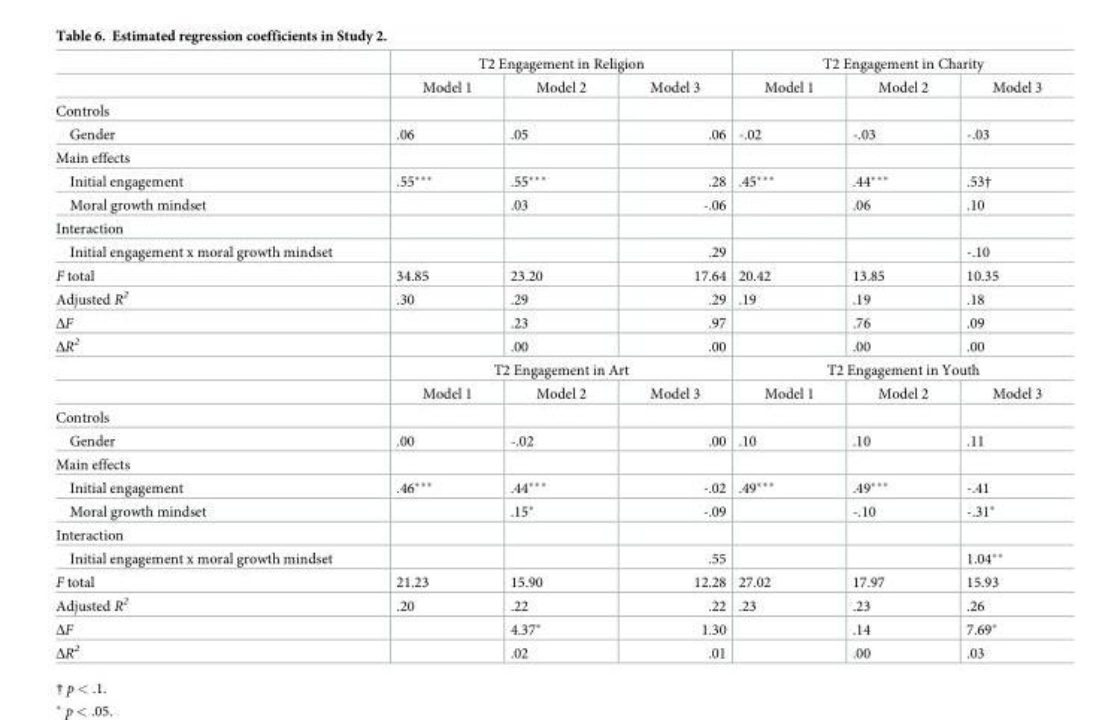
<table><thead><tr><td rowspan="2"></td><td colspan="3">T2 Engagement in Religion</td><td colspan="3">T2 Engagement in Charity</td></tr><tr><td>Model 1</td><td>Model 2</td><td>Model 3</td><td>Model 1</td><td>Model 2</td><td>Model 3</td></tr></thead><tbody><tr><td colspan="7">Controls</td></tr><tr><td>Gender</td><td>.06</td><td>.05</td><td>.06</td><td>-.02</td><td>-.03</td><td>-.03</td></tr><tr><td colspan="7">Main effects</td></tr><tr><td>Initial engagement</td><td>.55***</td><td>.55***</td><td>.28</td><td>.45***</td><td>.44***</td><td>.53†</td></tr><tr><td>Moral growth mindset</td><td></td><td>.03</td><td>-.06</td><td></td><td>.06</td><td>.10</td></tr><tr><td colspan="7">Interaction</td></tr><tr><td>Initial engagement x moral growth mindset</td><td></td><td></td><td>.29</td><td></td><td></td><td>-.10</td></tr><tr><td>F total</td><td>34.85</td><td>23.20</td><td>17.64</td><td>20.42</td><td>13.85</td><td>10.35</td></tr><tr><td>Adjusted R<sup>2</sup></td><td>.30</td><td>.29</td><td>.29</td><td>.19</td><td>.19</td><td>.18</td></tr><tr><td>ΔF</td><td></td><td>.23</td><td>.97</td><td></td><td>.76</td><td>.09</td></tr><tr><td rowspan="3">ΔR<sup>2</sup></td><td></td><td>.00</td><td>.00</td><td></td><td>.00</td><td>.00</td></tr><tr><td colspan="3">T2 Engagement in Art</td><td colspan="3">T2 Engagement in Youth</td></tr><tr><td>Model 1</td><td>Model 2</td><td>Model 3</td><td>Model 1</td><td>Model 2</td><td>Model 3</td></tr><tr><td colspan="7">Controls</td></tr><tr><td>Gender</td><td>.00</td><td>-.02</td><td>.00</td><td>.10</td><td>.10</td><td>.11</td></tr><tr><td colspan="7">Main effects</td></tr><tr><td>Initial engagement</td><td>.46***</td><td>.44***</td><td>-.02</td><td>.49***</td><td>.49***</td><td>-.41</td></tr><tr><td>Moral growth mindset</td><td></td><td>.15*</td><td>-.09</td><td></td><td>-.10</td><td>-.31*</td></tr><tr><td colspan="7">Interaction</td></tr><tr><td>Initial engagement x moral growth mindset</td><td></td><td></td><td>.55</td><td></td><td></td><td>1.04**</td></tr><tr><td>F total</td><td>21.23</td><td>15.90</td><td>12.28</td><td>27.02</td><td>17.97</td><td>15.93</td></tr><tr><td>Adjusted R<sup>2</sup></td><td>.20</td><td>.22</td><td>.22</td><td>.23</td><td>.23</td><td>.26</td></tr><tr><td>ΔF</td><td></td><td>4.37*</td><td>1.30</td><td></td><td>.14</td><td>7.69*</td></tr><tr><td>ΔR<sup>2</sup></td><td></td><td>.02</td><td>.01</td><td></td><td>.00</td><td>.03</td></tr></tbody></table>